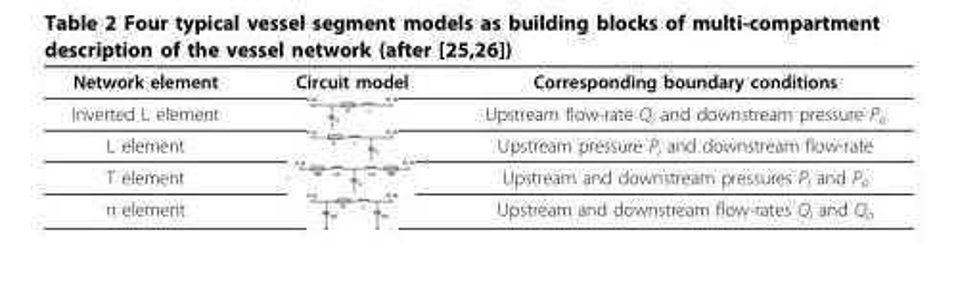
<table><thead><tr><td>Network element</td><td>Circuit model</td><td>Corresponding boundary conditions</td></tr></thead><tbody><tr><td>Inverted L element</td><td></td><td>Upstream flow-rate Q<sub>i</sub> and downstream pressure P<sub>o</sub></td></tr><tr><td>L element</td><td></td><td>Upstream pressure P<sub>i</sub> and downstream flow-rate</td></tr><tr><td>T element</td><td></td><td>Upstream and downstream pressures P<sub>i</sub> and P<sub>o</sub></td></tr><tr><td>π element</td><td></td><td>Upstream and downstream flow-rates Q<sub>i</sub> and Q<sub>o</sub></td></tr></tbody></table>